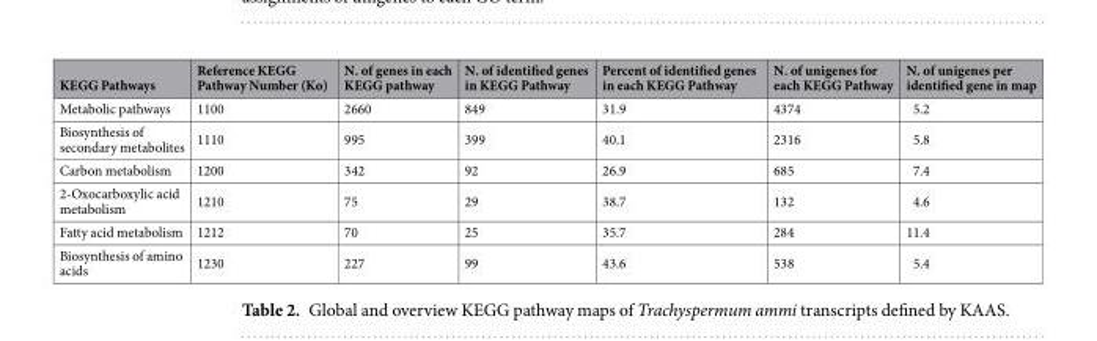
<table><thead><tr><td>KEGG Pathways</td><td>Reference KEGG Pathway Number (Ko)</td><td>N. of genes in each KEGG pathway</td><td>N. of identified genes in KEGG Pathway</td><td>Percent of identified genes in each KEGG Pathway</td><td>N. of unigenes for each KEGG Pathway</td><td>N. of unigenes per identified gene in map</td></tr></thead><tbody><tr><td>Metabolic pathways</td><td>1100</td><td>2660</td><td>849</td><td>31.9</td><td>4374</td><td>5.2</td></tr><tr><td>Biosynthesis of secondary metabolites</td><td>1110</td><td>995</td><td>399</td><td>40.1</td><td>2316</td><td>5.8</td></tr><tr><td>Carbon metabolism</td><td>1200</td><td>342</td><td>92</td><td>26.9</td><td>685</td><td>7.4</td></tr><tr><td>2-Oxocarboxylic acid metabolism</td><td>1210</td><td>75</td><td>29</td><td>38.7</td><td>132</td><td>4.6</td></tr><tr><td>Fatty acid metabolism</td><td>1212</td><td>70</td><td>25</td><td>35.7</td><td>284</td><td>11.4</td></tr><tr><td>Biosynthesis of amino acids</td><td>1230</td><td>227</td><td>99</td><td>43.6</td><td>538</td><td>5.4</td></tr></tbody></table>